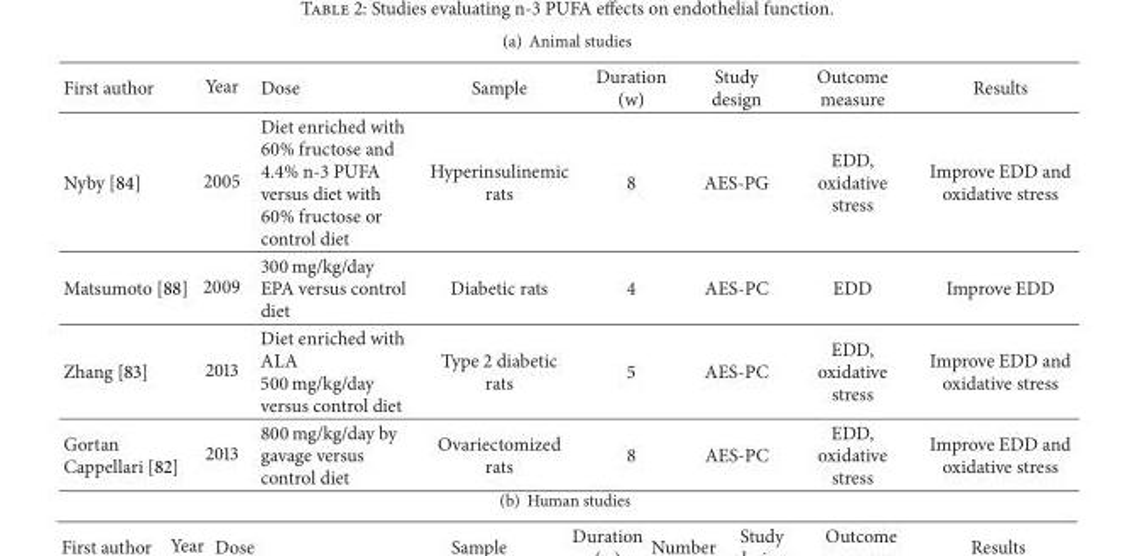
<table><thead><tr><td>First author</td><td>Year</td><td>Dose</td><td>Sample</td><td>Duration (w)</td><td>Study design</td><td>Outcome measure</td><td>Results</td></tr></thead><tbody><tr><td>Nyby [84]</td><td>2005</td><td>Diet enriched with 60% fructose and 4.4% n-3 PUFA versus diet with 60% fructose or control diet</td><td>Hyperinsulinemic rats</td><td>8</td><td>AES-PG</td><td>EDD, oxidative stress</td><td>Improve EDD and oxidative stress</td></tr><tr><td>Matsumoto [88]</td><td>2009</td><td>300 mg/kg/day EPA versus control diet</td><td>Diabetic rats</td><td>4</td><td>AES-PC</td><td>EDD</td><td>Improve EDD</td></tr><tr><td>Zhang [83]</td><td>2013</td><td>Diet enriched with ALA 500 mg/kg/day versus control diet</td><td>Type 2 diabetic rats</td><td>5</td><td>AES-PC</td><td>EDD, oxidative stress</td><td>Improve EDD and oxidative stress</td></tr><tr><td>Gortan Cappellari [82]</td><td>2013</td><td>800 mg/kg/day by gavage versus control diet</td><td>Ovariectomized rats</td><td>8</td><td>AES-PC</td><td>EDD, oxidative stress</td><td>Improve EDD and oxidative stress</td></tr></tbody></table>